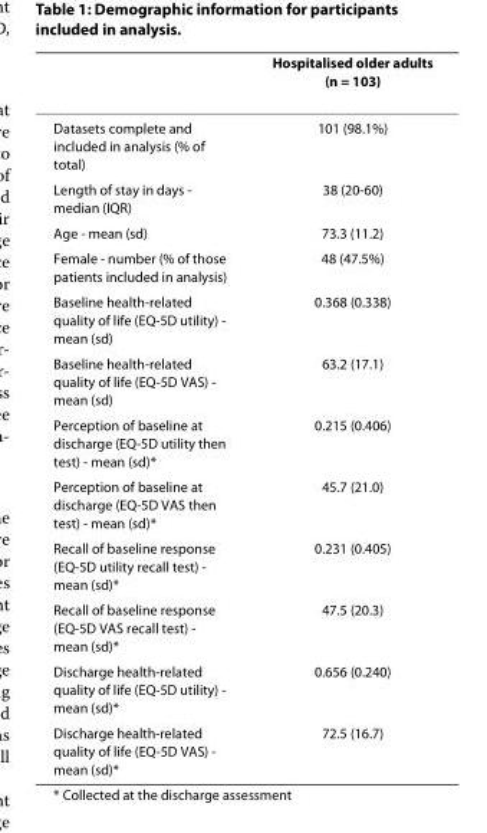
<table><thead><tr><td></td><td>Hospitalised older adults (n = 103)</td></tr></thead><tbody><tr><td>Datasets complete and included in analysis (% of total)</td><td>101 (98.1%)</td></tr><tr><td>Length of stay in days - median (IQR)</td><td>38 (20-60)</td></tr><tr><td>Age - mean (sd)</td><td>73.3 (11.2)</td></tr><tr><td>Female - number (% of those patients included in analysis)</td><td>48 (47.5%)</td></tr><tr><td>Baseline health-related quality of life (EQ-5D utility) - mean (sd)</td><td>0.368 (0.338)</td></tr><tr><td>Baseline health-related quality of life (EQ-5D VAS) - mean (sd)</td><td>63.2 (17.1)</td></tr><tr><td>Perception of baseline at discharge (EQ-5D utility then test) - mean (sd)*</td><td>0.215 (0.406)</td></tr><tr><td>Perception of baseline at discharge (EQ-5D VAS then test) - mean (sd)*</td><td>45.7 (21.0)</td></tr><tr><td>Recall of baseline response (EQ-5D utility recall test) - mean (sd)*</td><td>0.231 (0.405)</td></tr><tr><td>Recall of baseline response (EQ-5D VAS recall test) - mean (sd)*</td><td>47.5 (20.3)</td></tr><tr><td>Discharge health-related quality of life (EQ-5D utility) - mean (sd)*</td><td>0.656 (0.240)</td></tr><tr><td>Discharge health-related quality of life (EQ-5D VAS) - mean (sd)*</td><td>72.5 (16.7)</td></tr></tbody></table>